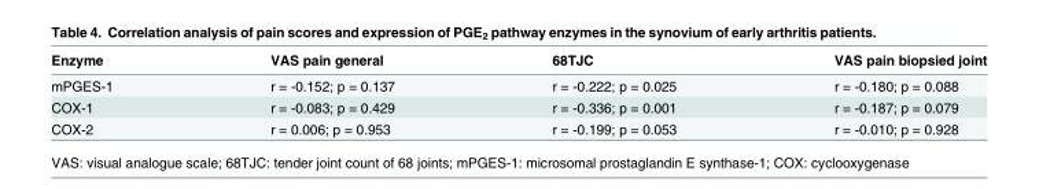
<table><thead><tr><td>Enzyme</td><td>VAS pain general</td><td>68TJC</td><td>VAS pain biopsied joint</td></tr></thead><tbody><tr><td>mPGES-1</td><td>r = -0.152; p = 0.137</td><td>r = -0.222; p = 0.025</td><td>r = -0.180; p = 0.088</td></tr><tr><td>COX-1</td><td>r = -0.083; p = 0.429</td><td>r = -0.336; p = 0.001</td><td>r = -0.187; p = 0.079</td></tr><tr><td>COX-2</td><td>r = 0.006; p = 0.953</td><td>r = -0.199; p = 0.053</td><td>r = -0.010; p = 0.928</td></tr></tbody></table>